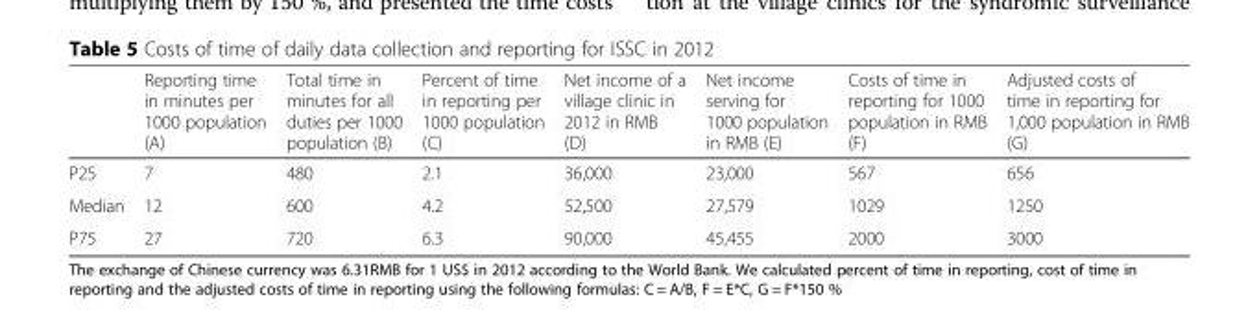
<table><thead><tr><td></td><td>Reporting time in minutes per 1000 population (A)</td><td>Total time in minutes for all duties per 1000 population (B)</td><td>Percent of time in reporting per 1000 population (C)</td><td>Net income of a village clinic in 2012 in RMB (D)</td><td>Net income serving for 1000 population in RMB (E)</td><td>Costs of time in reporting for 1000 population in RMB (F)</td><td>Adjusted costs of time in reporting for 1,000 population in RMB (G)</td></tr></thead><tbody><tr><td>P25</td><td>7</td><td>480</td><td>2.1</td><td>36,000</td><td>23,000</td><td>567</td><td>656</td></tr><tr><td>Median</td><td>12</td><td>600</td><td>4.2</td><td>52,500</td><td>27,579</td><td>1029</td><td>1250</td></tr><tr><td>P75</td><td>27</td><td>720</td><td>6.3</td><td>90,000</td><td>45,455</td><td>2000</td><td>3000</td></tr></tbody></table>